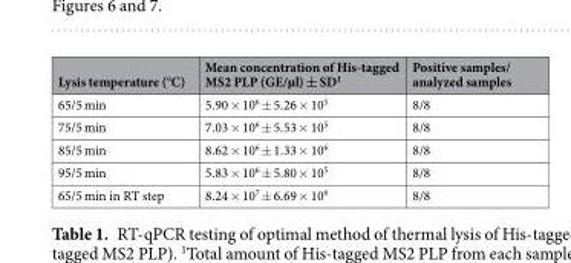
<table><thead><tr><td>Lysis temperature (°C)</td><td>Mean concentration of His-tagged MS2 PLP (GE/µl) ± SD<sup>1</sup></td><td>Positive samples/ analyzed samples</td></tr></thead><tbody><tr><td>65/5 min</td><td>5.90 × 10<sup>6</sup> ± 5.26 × 10<sup>5</sup></td><td>8/8</td></tr><tr><td>75/5 min</td><td>7.03 × 10<sup>6</sup> ± 5.53 × 10<sup>5</sup></td><td>8/8</td></tr><tr><td>85/5 min</td><td>8.62 × 10<sup>6</sup> ± 1.33 × 10<sup>6</sup></td><td>8/8</td></tr><tr><td>95/5 min</td><td>5.83 × 10<sup>6</sup> ± 5.80 × 10<sup>5</sup></td><td>8/8</td></tr><tr><td>65/5 min in RT step</td><td>8.24 × 10<sup>7</sup> ± 6.69 × 10<sup>6</sup></td><td>8/8</td></tr></tbody></table>